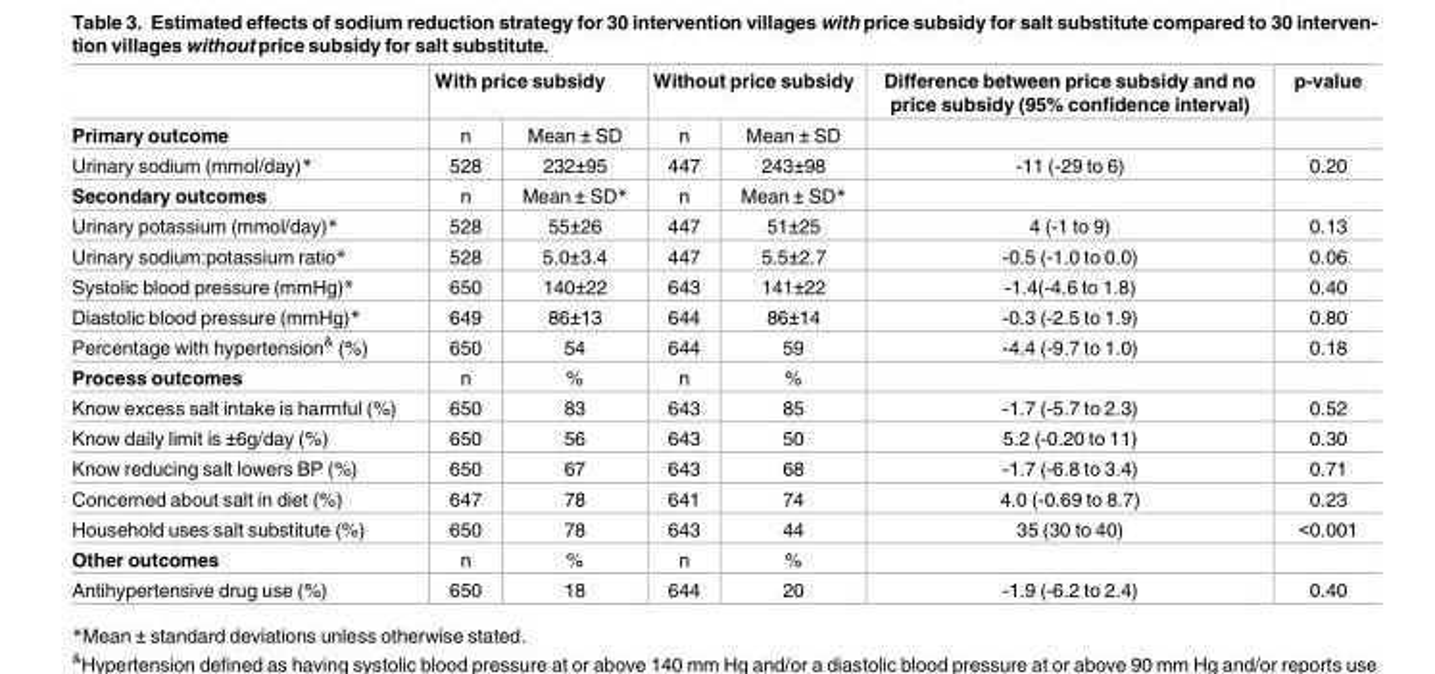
<table><thead><tr><td rowspan="2">Primary outcome</td><td colspan="2">With price subsidy</td><td colspan="2">Without price subsidy</td><td rowspan="2">Difference between price subsidy and no price subsidy (95% confidence interval)</td><td rowspan="2">p-value</td></tr><tr><td>n</td><td>Mean ± SD</td><td>n</td><td>Mean ± SD</td></tr></thead><tbody><tr><td>Urinary sodium (mmol/day)*</td><td>528</td><td>232±95</td><td>447</td><td>243±98</td><td>-11 (-29 to 6)</td><td>0.20</td></tr><tr><td>Secondary outcomes</td><td>n</td><td>Mean ± SD*</td><td>n</td><td>Mean ± SD*</td><td></td><td></td></tr><tr><td>Urinary potassium (mmol/day)*</td><td>528</td><td>55±26</td><td>447</td><td>51±25</td><td>4 (-1 to 9)</td><td>0.13</td></tr><tr><td>Urinary sodium:potassium ratio*</td><td>528</td><td>5.0±3.4</td><td>447</td><td>5.5±2.7</td><td>-0.5 (-1.0 to 0.0)</td><td>0.06</td></tr><tr><td>Systolic blood pressure (mmHg)*</td><td>650</td><td>140±22</td><td>643</td><td>141±22</td><td>-1.4(-4.6 to 1.8)</td><td>0.40</td></tr><tr><td>Diastolic blood pressure (mmHg)*</td><td>649</td><td>86±13</td><td>644</td><td>86±14</td><td>-0.3 (-2.5 to 1.9)</td><td>0.80</td></tr><tr><td>Percentage with hypertension<sup>&amp;</sup> (%)</td><td>650</td><td>54</td><td>644</td><td>59</td><td>-4.4 (-9.7 to 1.0)</td><td>0.18</td></tr><tr><td>Process outcomes</td><td>n</td><td>%</td><td>n</td><td>%</td><td></td><td></td></tr><tr><td>Know excess salt intake is harmful (%)</td><td>650</td><td>83</td><td>643</td><td>85</td><td>-1.7 (-5.7 to 2.3)</td><td>0.52</td></tr><tr><td>Know daily limit is ±6g/day (%)</td><td>650</td><td>56</td><td>643</td><td>50</td><td>5.2 (-0.20 to 11)</td><td>0.30</td></tr><tr><td>Know reducing salt lowers BP (%)</td><td>650</td><td>67</td><td>643</td><td>68</td><td>-1.7 (-6.8 to 3.4)</td><td>0.71</td></tr><tr><td>Concerned about salt in diet (%)</td><td>647</td><td>78</td><td>641</td><td>74</td><td>4.0 (-0.69 to 8.7)</td><td>0.23</td></tr><tr><td>Household uses salt substitute (%)</td><td>650</td><td>78</td><td>643</td><td>44</td><td>35 (30 to 40)</td><td>&lt;0.001</td></tr><tr><td>Other outcomes</td><td>n</td><td>%</td><td>n</td><td>%</td><td></td><td></td></tr><tr><td>Antihypertensive drug use (%)</td><td>650</td><td>18</td><td>644</td><td>20</td><td>-1.9 (-6.2 to 2.4)</td><td>0.40</td></tr></tbody></table>